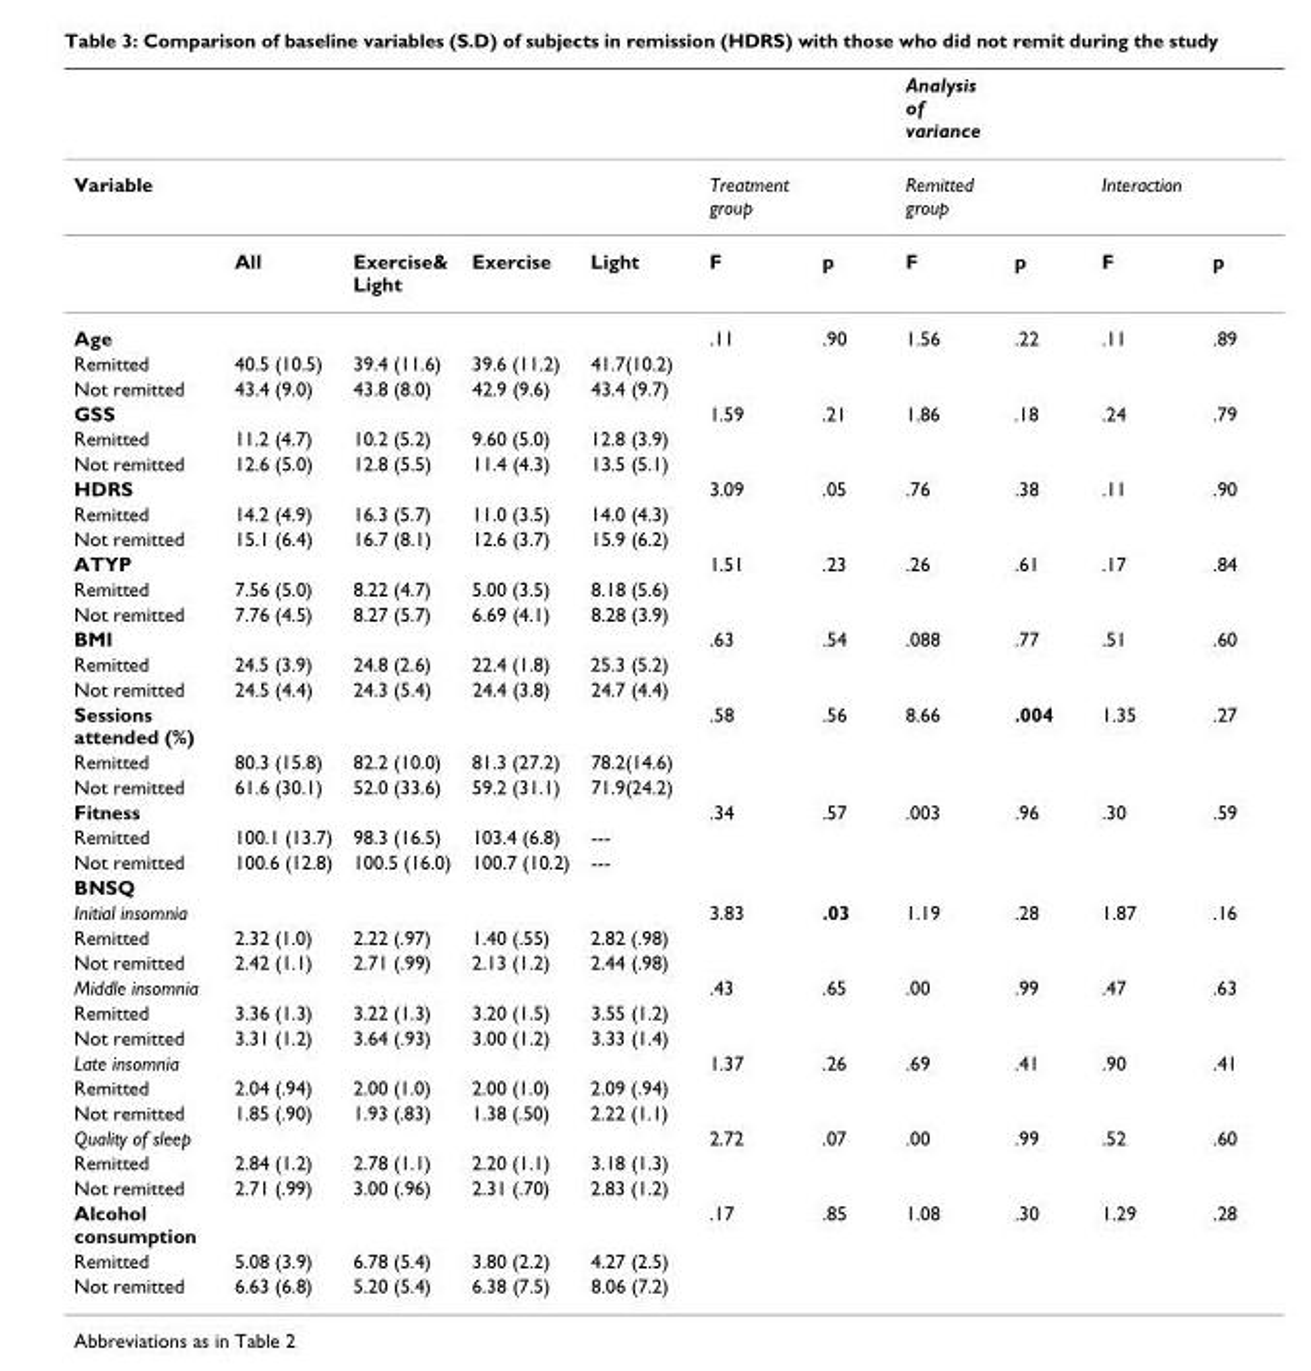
<table><thead><tr><td></td><td></td><td></td><td></td><td></td><td></td><td></td><td>Analysis of variance</td><td></td><td></td><td></td></tr></thead><tbody><tr><td rowspan="2">Variable</td><td></td><td></td><td></td><td></td><td>Treatment group</td><td></td><td>Remitted group</td><td></td><td>Interaction</td><td></td></tr><tr><td>All</td><td>Exercise&amp; Light</td><td>Exercise</td><td>Light</td><td>F</td><td>p</td><td>F</td><td>p</td><td>F</td><td>p</td></tr><tr><td>Age</td><td></td><td></td><td></td><td></td><td>.11</td><td>.90</td><td>1.56</td><td>.22</td><td>.11</td><td>.89</td></tr><tr><td>Remitted</td><td>40.5 (10.5)</td><td>39.4 (11.6)</td><td>39.6 (11.2)</td><td>41.7(10.2)</td><td></td><td></td><td></td><td></td><td></td><td></td></tr><tr><td>Not remitted</td><td>43.4 (9.0)</td><td>43.8 (8.0)</td><td>42.9 (9.6)</td><td>43.4 (9.7)</td><td></td><td></td><td></td><td></td><td></td><td></td></tr><tr><td>GSS</td><td></td><td></td><td></td><td></td><td>1.59</td><td>.21</td><td>1.86</td><td>.18</td><td>.24</td><td>.79</td></tr><tr><td>Remitted</td><td>11.2 (4.7)</td><td>10.2 (5.2)</td><td>9.60 (5.0)</td><td>12.8 (3.9)</td><td></td><td></td><td></td><td></td><td></td><td></td></tr><tr><td>Not remitted</td><td>12.6 (5.0)</td><td>12.8 (5.5)</td><td>11.4 (4.3)</td><td>13.5 (5.1)</td><td></td><td></td><td></td><td></td><td></td><td></td></tr><tr><td>HDRS</td><td></td><td></td><td></td><td></td><td>3.09</td><td>.05</td><td>.76</td><td>.38</td><td>.11</td><td>.90</td></tr><tr><td>Remitted</td><td>14.2 (4.9)</td><td>16.3 (5.7)</td><td>11.0 (3.5)</td><td>14.0 (4.3)</td><td></td><td></td><td></td><td></td><td></td><td></td></tr><tr><td>Not remitted</td><td>15.1 (6.4)</td><td>16.7 (8.1)</td><td>12.6 (3.7)</td><td>15.9 (6.2)</td><td></td><td></td><td></td><td></td><td></td><td></td></tr><tr><td>ATYP</td><td></td><td></td><td></td><td></td><td>1.51</td><td>.23</td><td>.26</td><td>.61</td><td>.17</td><td>.84</td></tr><tr><td>Remitted</td><td>7.56 (5.0)</td><td>8.22 (4.7)</td><td>5.00 (3.5)</td><td>8.18 (5.6)</td><td></td><td></td><td></td><td></td><td></td><td></td></tr><tr><td>Not remitted</td><td>7.76 (4.5)</td><td>8.27 (5.7)</td><td>6.69 (4.1)</td><td>8.28 (3.9)</td><td></td><td></td><td></td><td></td><td></td><td></td></tr><tr><td>BMI</td><td></td><td></td><td></td><td></td><td>.63</td><td>.54</td><td>.088</td><td>.77</td><td>.51</td><td>.60</td></tr><tr><td>Remitted</td><td>24.5 (3.9)</td><td>24.8 (2.6)</td><td>22.4 (1.8)</td><td>25.3 (5.2)</td><td></td><td></td><td></td><td></td><td></td><td></td></tr><tr><td>Not remitted</td><td>24.5 (4.4)</td><td>24.3 (5.4)</td><td>24.4 (3.8)</td><td>24.7 (4.4)</td><td></td><td></td><td></td><td></td><td></td><td></td></tr><tr><td>Sessions attended (%)</td><td></td><td></td><td></td><td></td><td>.58</td><td>.56</td><td>8.66</td><td>.004</td><td>1.35</td><td>.27</td></tr><tr><td>Remitted</td><td>80.3 (15.8)</td><td>82.2 (10.0)</td><td>81.3 (27.2)</td><td>78.2(14.6)</td><td></td><td></td><td></td><td></td><td></td><td></td></tr><tr><td>Not remitted</td><td>61.6 (30.1)</td><td>52.0 (33.6)</td><td>59.2 (31.1)</td><td>71.9(24.2)</td><td></td><td></td><td></td><td></td><td></td><td></td></tr><tr><td>Fitness</td><td></td><td></td><td></td><td></td><td>.34</td><td>.57</td><td>.003</td><td>.96</td><td>.30</td><td>.59</td></tr><tr><td>Remitted</td><td>100.1 (13.7)</td><td>98.3 (16.5)</td><td>103.4 (6.8)</td><td>---</td><td></td><td></td><td></td><td></td><td></td><td></td></tr><tr><td>Not remitted</td><td>100.6 (12.8)</td><td>100.5 (16.0)</td><td>100.7 (10.2)</td><td>---</td><td></td><td></td><td></td><td></td><td></td><td></td></tr><tr><td colspan="11">BNSQ</td></tr><tr><td>Initial insomnia</td><td></td><td></td><td></td><td></td><td>3.83</td><td>.03</td><td>1.19</td><td>.28</td><td>1.87</td><td>.16</td></tr><tr><td>Remitted</td><td>2.32 (1.0)</td><td>2.22 (.97)</td><td>1.40 (.55)</td><td>2.82 (.98)</td><td></td><td></td><td></td><td></td><td></td><td></td></tr><tr><td>Not remitted</td><td>2.42 (1.1)</td><td>2.71 (.99)</td><td>2.13 (1.2)</td><td>2.44 (.98)</td><td></td><td></td><td></td><td></td><td></td><td></td></tr><tr><td>Middle insomnia</td><td></td><td></td><td></td><td></td><td>.43</td><td>.65</td><td>.00</td><td>.99</td><td>.47</td><td>.63</td></tr><tr><td>Remitted</td><td>3.36 (1.3)</td><td>3.22 (1.3)</td><td>3.20 (1.5)</td><td>3.55 (1.2)</td><td></td><td></td><td></td><td></td><td></td><td></td></tr><tr><td>Not remitted</td><td>3.31 (1.2)</td><td>3.64 (.93)</td><td>3.00 (1.2)</td><td>3.33 (1.4)</td><td></td><td></td><td></td><td></td><td></td><td></td></tr><tr><td>Late insomnia</td><td></td><td></td><td></td><td></td><td>1.37</td><td>.26</td><td>.69</td><td>.41</td><td>.90</td><td>.41</td></tr><tr><td>Remitted</td><td>2.04 (.94)</td><td>2.00 (1.0)</td><td>2.00 (1.0)</td><td>2.09 (.94)</td><td></td><td></td><td></td><td></td><td></td><td></td></tr><tr><td>Not remitted</td><td>1.85 (.90)</td><td>1.93 (.83)</td><td>1.38 (.50)</td><td>2.22 (1.1)</td><td></td><td></td><td></td><td></td><td></td><td></td></tr><tr><td>Quality of sleep</td><td></td><td></td><td></td><td></td><td>2.72</td><td>.07</td><td>.00</td><td>.99</td><td>.52</td><td>.60</td></tr><tr><td>Remitted</td><td>2.84 (1.2)</td><td>2.78 (1.1)</td><td>2.20 (1.1)</td><td>3.18 (1.3)</td><td></td><td></td><td></td><td></td><td></td><td></td></tr><tr><td>Not remitted</td><td>2.71 (.99)</td><td>3.00 (.96)</td><td>2.31 (.70)</td><td>2.83 (1.2)</td><td></td><td></td><td></td><td></td><td></td><td></td></tr><tr><td>Alcohol consumption</td><td></td><td></td><td></td><td></td><td>.17</td><td>.85</td><td>1.08</td><td>.30</td><td>1.29</td><td>.28</td></tr><tr><td>Remitted</td><td>5.08 (3.9)</td><td>6.78 (5.4)</td><td>3.80 (2.2)</td><td>4.27 (2.5)</td><td></td><td></td><td></td><td></td><td></td><td></td></tr><tr><td>Not remitted</td><td>6.63 (6.8)</td><td>5.20 (5.4)</td><td>6.38 (7.5)</td><td>8.06 (7.2)</td><td></td><td></td><td></td><td></td><td></td><td></td></tr></tbody></table>